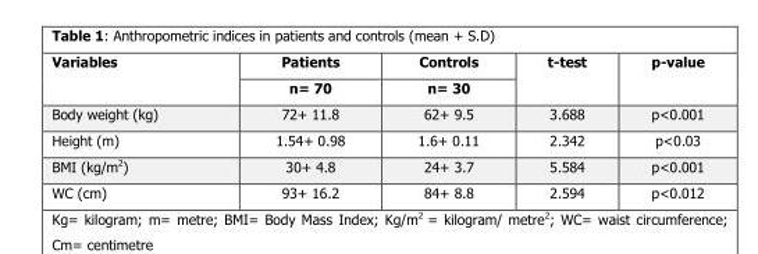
<table><thead><tr><td rowspan="2">Variables</td><td rowspan="2">Patients n= 70</td><td rowspan="2">Controls n= 30</td><td rowspan="2">t-test</td><td rowspan="2">p-value</td></tr><tr></tr></thead><tbody><tr><td>Body weight (kg)</td><td>72+ 11.8</td><td>62+ 9.5</td><td>3.688</td><td>p&lt;0.001</td></tr><tr><td>Height (m)</td><td>1.54+ 0.98</td><td>1.6+ 0.11</td><td>2.342</td><td>p&lt;0.03</td></tr><tr><td>BMI (kg/m<sup>2</sup>)</td><td>30+ 4.8</td><td>24+ 3.7</td><td>5.584</td><td>p&lt;0.001</td></tr><tr><td>WC (cm)</td><td>93+ 16.2</td><td>84+ 8.8</td><td>2.594</td><td>p&lt;0.012</td></tr></tbody></table>